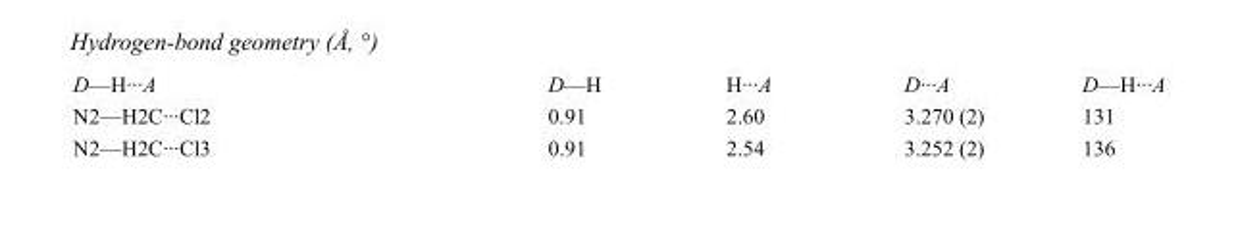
<table><tbody><tr><td>D—H···A</td><td>D—H</td><td>H···A</td><td>D···A</td><td>D—H···A</td></tr><tr><td>N2—H2C···Cl2</td><td>0.91</td><td>2.60</td><td>3.270 (2)</td><td>131</td></tr><tr><td>N2—H2C···Cl3</td><td>0.91</td><td>2.54</td><td>3.252 (2)</td><td>136</td></tr></tbody></table>